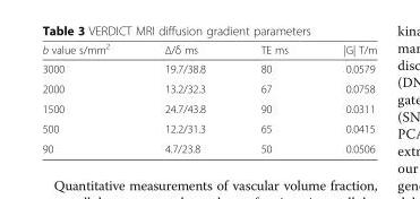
<table><thead><tr><td>b value s/mm<sup>2</sup></td><td>Δ/δ ms</td><td>TE ms</td><td>|G| T/m</td></tr></thead><tbody><tr><td>3000</td><td>19.7/38.8</td><td>80</td><td>0.0579</td></tr><tr><td>2000</td><td>13.2/32.3</td><td>67</td><td>0.0758</td></tr><tr><td>1500</td><td>24.7/43.8</td><td>90</td><td>0.0311</td></tr><tr><td>500</td><td>12.2/31.3</td><td>65</td><td>0.0415</td></tr><tr><td>90</td><td>4.7/23.8</td><td>50</td><td>0.0506</td></tr></tbody></table>